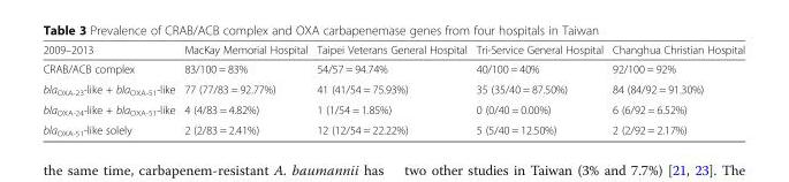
<table><thead><tr><td>2009–2013</td><td>MacKay Memorial Hospital</td><td>Taipei Veterans General Hospital</td><td>Tri-Service General Hospital</td><td>Changhua Christian Hospital</td></tr></thead><tbody><tr><td>CRAB/ACB complex</td><td>83/100 = 83%</td><td>54/57 = 94.74%</td><td>40/100 = 40%</td><td>92/100 = 92%</td></tr><tr><td>bla<sub>OXA-23</sub>-like + bla<sub>OXA-51</sub>-like</td><td>77 (77/83 = 92.77%)</td><td>41 (41/54 = 75.93%)</td><td>35 (35/40 = 87.50%)</td><td>84 (84/92 = 91.30%)</td></tr><tr><td>bla<sub>OXA-24</sub>-like + bla<sub>OXA-51</sub>-like</td><td>4 (4/83 = 4.82%)</td><td>1 (1/54 = 1.85%)</td><td>0 (0/40 = 0.00%)</td><td>6 (6/92 = 6.52%)</td></tr><tr><td>bla<sub>OXA-51</sub>-like solely</td><td>2 (2/83 = 2.41%)</td><td>12 (12/54 = 22.22%)</td><td>5 (5/40 = 12.50%)</td><td>2 (2/92 = 2.17%)</td></tr></tbody></table>